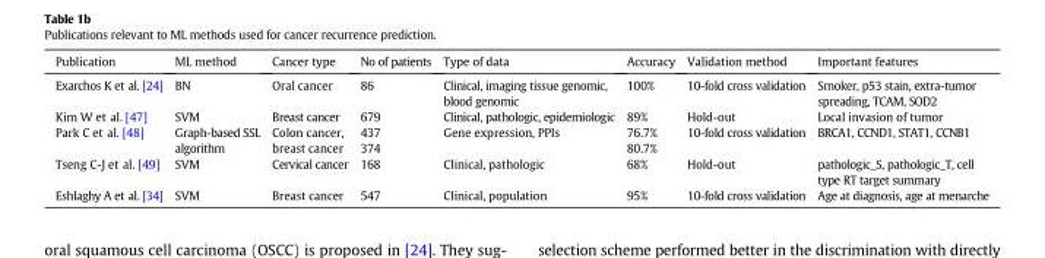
<table><thead><tr><td>Publication</td><td>ML method</td><td>Cancer type</td><td>No of patients</td><td>Type of data</td><td>Accuracy</td><td>Validation method</td><td>Important features</td></tr></thead><tbody><tr><td>Exarchos K et al. [24]</td><td>BN</td><td>Oral cancer</td><td>86</td><td>Clinical, imaging tissue genomic, blood genomic</td><td>100%</td><td>10-fold cross validation</td><td>Smoker, p53 stain, extra-tumor spreading, TCAM, SOD2</td></tr><tr><td>Kim W et al. [47]</td><td>SVM</td><td>Breast cancer</td><td>679</td><td>Clinical, pathologic, epidemiologic</td><td>89%</td><td>Hold-out</td><td>Local invasion of tumor</td></tr><tr><td>Park C et al. [48]</td><td>Graph-based SSL algorithm</td><td>Colon cancer, breast cancer</td><td>437 374</td><td>Gene expression, PPIs</td><td>76.7% 80.7%</td><td>10-fold cross validation</td><td>BRCA1, CCND1, STAT1, CCNB1</td></tr><tr><td>Tseng C-J et al. [49]</td><td>SVM</td><td>Cervical cancer</td><td>168</td><td>Clinical, pathologic</td><td>68%</td><td>Hold-out</td><td>pathologic_S, pathologic_T, cell type RT target summary</td></tr><tr><td>Eshlaghy A et al. [34]</td><td>SVM</td><td>Breast cancer</td><td>547</td><td>Clinical, population</td><td>95%</td><td>10-fold cross validation</td><td>Age at diagnosis, age at menarche</td></tr></tbody></table>